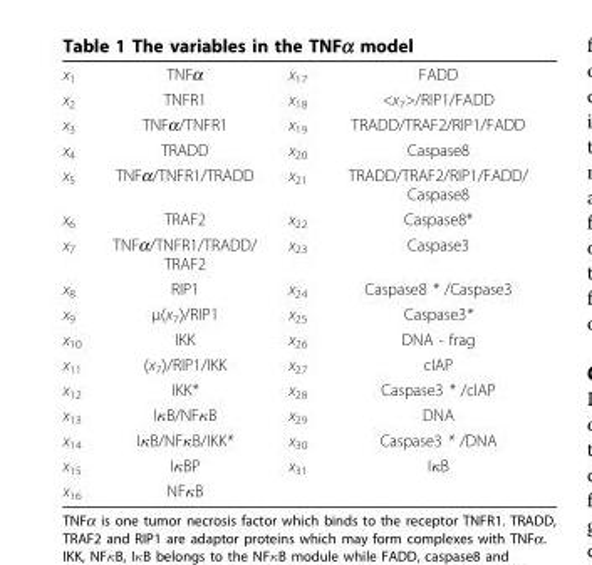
<table><tbody><tr><td>x<sub>1</sub></td><td>TNFα</td><td>x<sub>17</sub></td><td>FADD</td></tr><tr><td>x<sub>2</sub></td><td>TNFR1</td><td>x<sub>18</sub></td><td>&lt;x<sub>7</sub>&gt;/RIP1/FADD</td></tr><tr><td>x<sub>3</sub></td><td>TNFα/TNFR1</td><td>x<sub>19</sub></td><td>TRADD/TRAF2/RIP1/FADD</td></tr><tr><td>x<sub>4</sub></td><td>TRADD</td><td>x<sub>20</sub></td><td>Caspase8</td></tr><tr><td>x<sub>5</sub></td><td>TNFα/TNFR1/TRADD</td><td>x<sub>21</sub></td><td>TRADD/TRAF2/RIP1/FADD/ Caspase8</td></tr><tr><td>x<sub>6</sub></td><td>TRAF2</td><td>x<sub>22</sub></td><td>Caspase8*</td></tr><tr><td>x<sub>7</sub></td><td>TNFα/TNFR1/TRADD/ TRAF2</td><td>x<sub>23</sub></td><td>Caspase3</td></tr><tr><td>x<sub>8</sub></td><td>RIP1</td><td>x<sub>24</sub></td><td>Caspase8 * /Caspase3</td></tr><tr><td>x<sub>9</sub></td><td>μ〈x7〉/RIP1</td><td>x<sub>25</sub></td><td>Caspase3*</td></tr><tr><td>x<sub>10</sub></td><td>IKK</td><td>x<sub>26</sub></td><td>DNA - frag</td></tr><tr><td>x<sub>11</sub></td><td>〈x7〉/RIP1/IKK</td><td>x<sub>27</sub></td><td>cIAP</td></tr><tr><td>x<sub>12</sub></td><td>IKK*</td><td>x<sub>28</sub></td><td>Caspase3 * /cIAP</td></tr><tr><td>x<sub>13</sub></td><td>IκB/NFκB</td><td>x<sub>29</sub></td><td>DNA</td></tr><tr><td>x<sub>14</sub></td><td>IκB/NFκB/IKK*</td><td>x<sub>30</sub></td><td>Caspase3 * /DNA</td></tr><tr><td>x<sub>15</sub></td><td>IκBP</td><td>x<sub>31</sub></td><td>IκB</td></tr><tr><td>x<sub>16</sub></td><td>NFκB</td><td></td><td></td></tr></tbody></table>